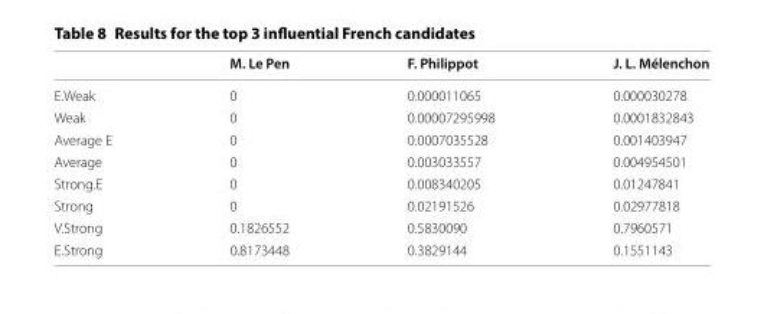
<table><thead><tr><td></td><td>M. Le Pen</td><td>F. Philippot</td><td>J. L. Mélenchon</td></tr></thead><tbody><tr><td>E.Weak</td><td>0</td><td>0.000011065</td><td>0.000030278</td></tr><tr><td>Weak</td><td>0</td><td>0.00007295998</td><td>0.0001832843</td></tr><tr><td>Average E</td><td>0</td><td>0.0007035528</td><td>0.001403947</td></tr><tr><td>Average</td><td>0</td><td>0.003033557</td><td>0.004954501</td></tr><tr><td>Strong.E</td><td>0</td><td>0.008340205</td><td>0.01247841</td></tr><tr><td>Strong</td><td>0</td><td>0.02191526</td><td>0.02977818</td></tr><tr><td>V.Strong</td><td>0.1826552</td><td>0.5830090</td><td>0.7960571</td></tr><tr><td>E.Strong</td><td>0.8173448</td><td>0.3829144</td><td>0.1551143</td></tr></tbody></table>